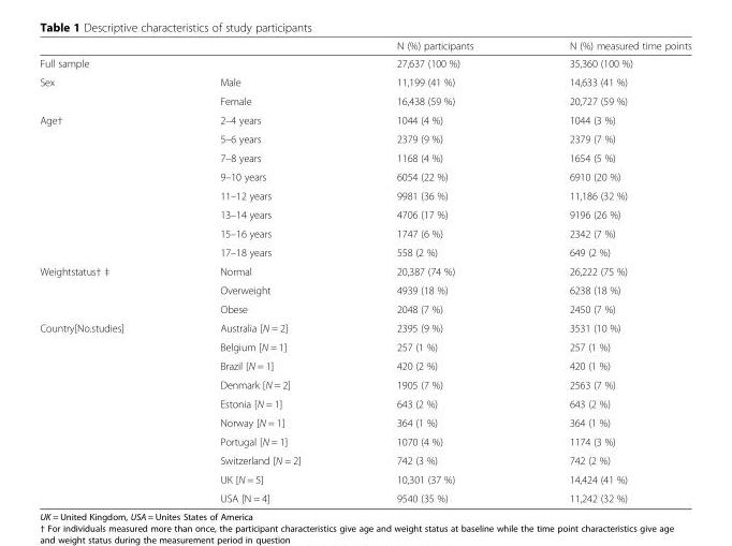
<table><thead><tr><td></td><td></td><td>N (%) participants</td><td>N (%) measured time points</td></tr></thead><tbody><tr><td>Full sample</td><td></td><td>27,637 (100 %)</td><td>35,360 (100 %)</td></tr><tr><td rowspan="2">Sex</td><td>Male</td><td>11,199 (41 %)</td><td>14,633 (41 %)</td></tr><tr><td>Female</td><td>16,438 (59 %)</td><td>20,727 (59 %)</td></tr><tr><td rowspan="8">Age†</td><td>2–4 years</td><td>1044 (4 %)</td><td>1044 (3 %)</td></tr><tr><td>5–6 years</td><td>2379 (9 %)</td><td>2379 (7 %)</td></tr><tr><td>7–8 years</td><td>1168 (4 %)</td><td>1654 (5 %)</td></tr><tr><td>9–10 years</td><td>6054 (22 %)</td><td>6910 (20 %)</td></tr><tr><td>11–12 years</td><td>9981 (36 %)</td><td>11,186 (32 %)</td></tr><tr><td>13–14 years</td><td>4706 (17 %)</td><td>9196 (26 %)</td></tr><tr><td>15–16 years</td><td>1747 (6 %)</td><td>2342 (7 %)</td></tr><tr><td>17–18 years</td><td>558 (2 %)</td><td>649 (2 %)</td></tr><tr><td rowspan="3">Weightstatus† ‡</td><td>Normal</td><td>20,387 (74 %)</td><td>26,222 (75 %)</td></tr><tr><td>Overweight</td><td>4939 (18 %)</td><td>6238 (18 %)</td></tr><tr><td>Obese</td><td>2048 (7 %)</td><td>2450 (7 %)</td></tr><tr><td rowspan="10">Country[No.studies]</td><td>Australia [N = 2]</td><td>2395 (9 %)</td><td>3531 (10 %)</td></tr><tr><td>Belgium [N = 1]</td><td>257 (1 %)</td><td>257 (1 %)</td></tr><tr><td>Brazil [N = 1]</td><td>420 (2 %)</td><td>420 (1 %)</td></tr><tr><td>Denmark [N = 2]</td><td>1905 (7 %)</td><td>2563 (7 %)</td></tr><tr><td>Estonia [N = 1]</td><td>643 (2 %)</td><td>643 (2 %)</td></tr><tr><td>Norway [N = 1]</td><td>364 (1 %)</td><td>364 (1 %)</td></tr><tr><td>Portugal [N = 1]</td><td>1070 (4 %)</td><td>1174 (3 %)</td></tr><tr><td>Switzerland [N = 2]</td><td>742 (3 %)</td><td>742 (2 %)</td></tr><tr><td>UK [N = 5]</td><td>10,301 (37 %)</td><td>14,424 (41 %)</td></tr><tr><td>USA [N = 4]</td><td>9540 (35 %)</td><td>11,242 (32 %)</td></tr></tbody></table>